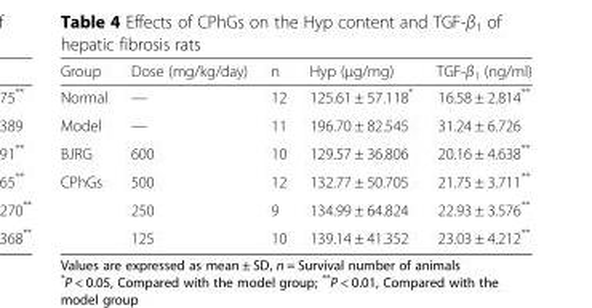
<table><thead><tr><td>Group</td><td>Dose (mg/kg/day)</td><td>n</td><td>Hyp (μg/mg)</td><td>TGF-β<sub>1</sub> (ng/ml)</td></tr></thead><tbody><tr><td>Normal</td><td>—</td><td>12</td><td>125.61 ± 57.118*</td><td>16.58 ± 2.814**</td></tr><tr><td>Model</td><td>—</td><td>11</td><td>196.70 ± 82.545</td><td>31.24 ± 6.726</td></tr><tr><td>BJRG</td><td>600</td><td>10</td><td>129.57 ± 36.806</td><td>20.16 ± 4.638**</td></tr><tr><td rowspan="3">CPhGs</td><td>500</td><td>12</td><td>132.77 ± 50.705</td><td>21.75 ± 3.711**</td></tr><tr><td>250</td><td>9</td><td>134.99 ± 64.824</td><td>22.93 ± 3.576**</td></tr><tr><td>125</td><td>10</td><td>139.14 ± 41.352</td><td>23.03 ± 4.212**</td></tr></tbody></table>